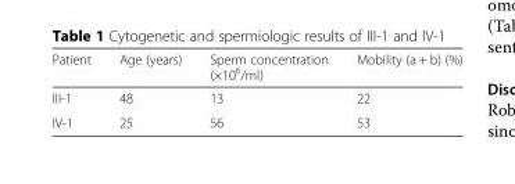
<table><thead><tr><td>Patient</td><td>Age (years)</td><td>Sperm concentration (×10<sup>6</sup>/ml)</td><td>Mobility (a + b) (%)</td></tr></thead><tbody><tr><td>III-1</td><td>48</td><td>13</td><td>22</td></tr><tr><td>IV-1</td><td>25</td><td>56</td><td>53</td></tr></tbody></table>